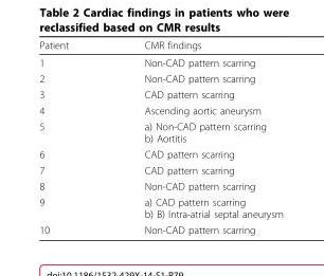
<table><thead><tr><td>Patient</td><td>CMR findings</td></tr></thead><tbody><tr><td>1</td><td>Non-CAD pattern scarring</td></tr><tr><td>2</td><td>Non-CAD pattern scarring</td></tr><tr><td>3</td><td>CAD pattern scarring</td></tr><tr><td>4</td><td>Ascending aortic aneurysm</td></tr><tr><td>5</td><td>a) Non-CAD pattern scarring b) Aortitis</td></tr><tr><td>6</td><td>CAD pattern scarring</td></tr><tr><td>7</td><td>CAD pattern scarring</td></tr><tr><td>8</td><td>Non-CAD pattern scarring</td></tr><tr><td>9</td><td>a) CAD pattern scarring b) B) Intra-atrial septal aneurysm</td></tr><tr><td>10</td><td>Non-CAD pattern scarring</td></tr></tbody></table>